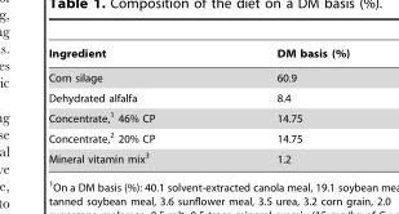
<table><thead><tr><td>Ingredient</td><td>DM basis (%)</td></tr></thead><tbody><tr><td>Corn silage</td><td>60.9</td></tr><tr><td>Dehydrated alfalfa</td><td>8.4</td></tr><tr><td>Concentrate,<sup>1</sup> 46% CP</td><td>14.75</td></tr><tr><td>Concentrate,<sup>2</sup> 20% CP</td><td>14.75</td></tr><tr><td>Mineral vitamin mix<sup>3</sup></td><td>1.2</td></tr></tbody></table>